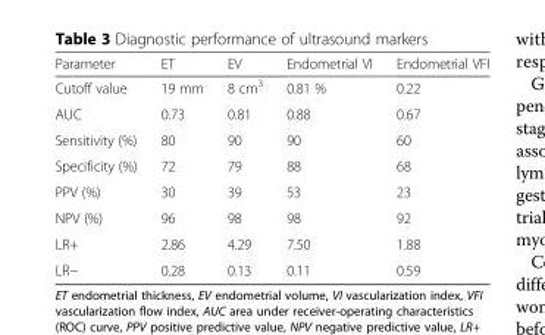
<table><thead><tr><td>Parameter</td><td>ET</td><td>EV</td><td>Endometrial VI</td><td>Endometrial VFI</td></tr></thead><tbody><tr><td>Cutoff value</td><td>19 mm</td><td>8 cm<sup>3</sup></td><td>0.81 %</td><td>0.22</td></tr><tr><td>AUC</td><td>0.73</td><td>0.81</td><td>0.88</td><td>0.67</td></tr><tr><td>Sensitivity (%)</td><td>80</td><td>90</td><td>90</td><td>60</td></tr><tr><td>Specificity (%)</td><td>72</td><td>79</td><td>88</td><td>68</td></tr><tr><td>PPV (%)</td><td>30</td><td>39</td><td>53</td><td>23</td></tr><tr><td>NPV (%)</td><td>96</td><td>98</td><td>98</td><td>92</td></tr><tr><td>LR+</td><td>2.86</td><td>4.29</td><td>7.50</td><td>1.88</td></tr><tr><td>LR−</td><td>0.28</td><td>0.13</td><td>0.11</td><td>0.59</td></tr></tbody></table>